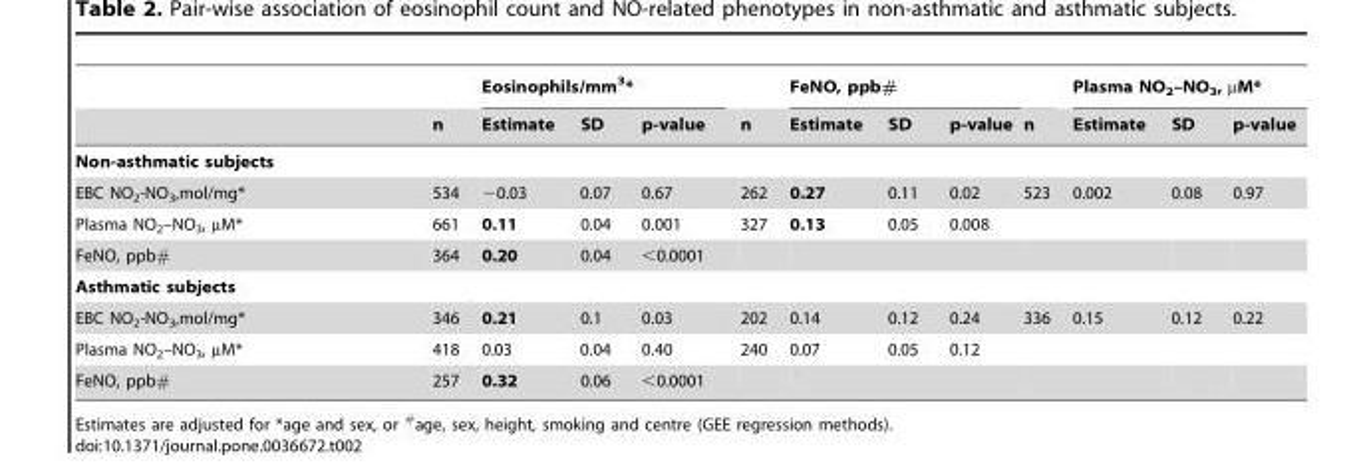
<table><thead><tr><td rowspan="2"></td><td rowspan="2">n</td><td colspan="3">Eosinophils/mm<sup>3</sup>*</td><td rowspan="2">n</td><td colspan="4">FeNO, ppb#</td><td colspan="3">Plasma NO<sub>2</sub>–NO<sub>3</sub>, µM*</td></tr><tr><td>Estimate</td><td>SD</td><td>p-value</td><td>Estimate</td><td>SD</td><td>p-value</td><td>n</td><td>Estimate</td><td>SD</td><td>p-value</td></tr></thead><tbody><tr><td colspan="13">Non-asthmatic subjects</td></tr><tr><td>EBC NO<sub>2</sub>-NO<sub>3</sub>,mol/mg*</td><td>534</td><td>−0.03</td><td>0.07</td><td>0.67</td><td>262</td><td>0.27</td><td>0.11</td><td>0.02</td><td>523</td><td>0.002</td><td>0.08</td><td>0.97</td></tr><tr><td>Plasma NO<sub>2</sub>–NO<sub>3</sub>, µM*</td><td>661</td><td>0.11</td><td>0.04</td><td>0.001</td><td>327</td><td>0.13</td><td>0.05</td><td>0.008</td><td></td><td></td><td></td><td></td></tr><tr><td>FeNO, ppb#</td><td>364</td><td>0.20</td><td>0.04</td><td>&lt;0.0001</td><td></td><td></td><td></td><td></td><td></td><td></td><td></td><td></td></tr><tr><td colspan="13">Asthmatic subjects</td></tr><tr><td>EBC NO<sub>2</sub>-NO<sub>3</sub>,mol/mg*</td><td>346</td><td>0.21</td><td>0.1</td><td>0.03</td><td>202</td><td>0.14</td><td>0.12</td><td>0.24</td><td>336</td><td>0.15</td><td>0.12</td><td>0.22</td></tr><tr><td>Plasma NO<sub>2</sub>–NO<sub>3</sub>, µM*</td><td>418</td><td>0.03</td><td>0.04</td><td>0.40</td><td>240</td><td>0.07</td><td>0.05</td><td>0.12</td><td></td><td></td><td></td><td></td></tr><tr><td>FeNO, ppb#</td><td>257</td><td>0.32</td><td>0.06</td><td>&lt;0.0001</td><td></td><td></td><td></td><td></td><td></td><td></td><td></td><td></td></tr></tbody></table>